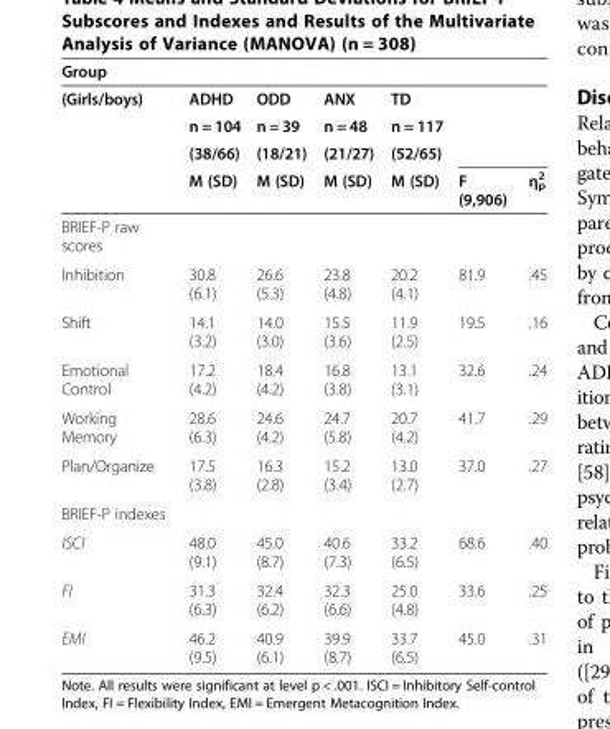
<table><thead><tr><td colspan="7">Group</td></tr><tr><td rowspan="4">(Girls/boys)</td><td rowspan="4">ADHD n = 104 (38/66) M (SD)</td><td rowspan="4">ODD n = 39 (18/21) M (SD)</td><td rowspan="4">ANX n = 48 (21/27) M (SD)</td><td rowspan="4">TD n = 117 (52/65) M (SD)</td><td rowspan="4">F (9,906)</td><td rowspan="4">η<sub>p</sub> <sup>2</sup></td></tr><tr></tr><tr></tr><tr></tr></thead><tbody><tr><td colspan="7">BRIEF-P raw scores</td></tr><tr><td>Inhibition</td><td>30.8 (6.1)</td><td>26.6 (5.3)</td><td>23.8 (4.8)</td><td>20.2 (4.1)</td><td>81.9</td><td>.45</td></tr><tr><td>Shift</td><td>14.1 (3.2)</td><td>14.0 (3.0)</td><td>15.5 (3.6)</td><td>11.9 (2.5)</td><td>19.5</td><td>.16</td></tr><tr><td>Emotional Control</td><td>17.2 (4.2)</td><td>18.4 (4.2)</td><td>16.8 (3.8)</td><td>13.1 (3.1)</td><td>32.6</td><td>.24</td></tr><tr><td>Working Memory</td><td>28.6 (6.3)</td><td>24.6 (4.2)</td><td>24.7 (5.8)</td><td>20.7 (4.2)</td><td>41.7</td><td>.29</td></tr><tr><td>Plan/Organize</td><td>17.5 (3.8)</td><td>16.3 (2.8)</td><td>15.2 (3.4)</td><td>13.0 (2.7)</td><td>37.0</td><td>.27</td></tr><tr><td colspan="7">BRIEF-P indexes</td></tr><tr><td>ISCI</td><td>48.0 (9.1)</td><td>45.0 (8.7)</td><td>40.6 (7.3)</td><td>33.2 (6.5)</td><td>68.6</td><td>.40</td></tr><tr><td>FI</td><td>31.3 (6.3)</td><td>32.4 (6.2)</td><td>32.3 (6.6)</td><td>25.0 (4.8)</td><td>33.6</td><td>.25</td></tr><tr><td>EMI</td><td>46.2 (9.5)</td><td>40.9 (6.1)</td><td>39.9 (8.7)</td><td>33.7 (6.5)</td><td>45.0</td><td>.31</td></tr></tbody></table>